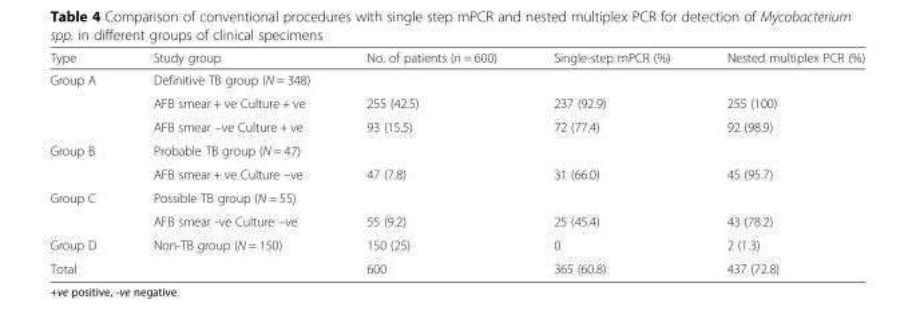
<table><thead><tr><td>Type</td><td>Study group</td><td>No. of patients (n = 600)</td><td>Single-step mPCR (%)</td><td>Nested multiplex PCR (%)</td></tr></thead><tbody><tr><td rowspan="3">Group A</td><td>Definitive TB group (N = 348)</td><td></td><td></td><td></td></tr><tr><td>AFB smear + ve Culture + ve</td><td>255 (42.5)</td><td>237 (92.9)</td><td>255 (100)</td></tr><tr><td>AFB smear –ve Culture + ve</td><td>93 (15.5)</td><td>72 (77.4)</td><td>92 (98.9)</td></tr><tr><td rowspan="2">Group B</td><td>Probable TB group (N = 47)</td><td></td><td></td><td></td></tr><tr><td>AFB smear + ve Culture –ve</td><td>47 (7.8)</td><td>31 (66.0)</td><td>45 (95.7)</td></tr><tr><td rowspan="2">Group C</td><td>Possible TB group (N = 55)</td><td></td><td></td><td></td></tr><tr><td>AFB smear -ve Culture –ve</td><td>55 (9.2)</td><td>25 (45.4)</td><td>43 (78.2)</td></tr><tr><td>Group D</td><td>Non-TB group (N = 150)</td><td>150 (25)</td><td>0</td><td>2 (1.3)</td></tr><tr><td>Total</td><td></td><td>600</td><td>365 (60.8)</td><td>437 (72.8)</td></tr></tbody></table>